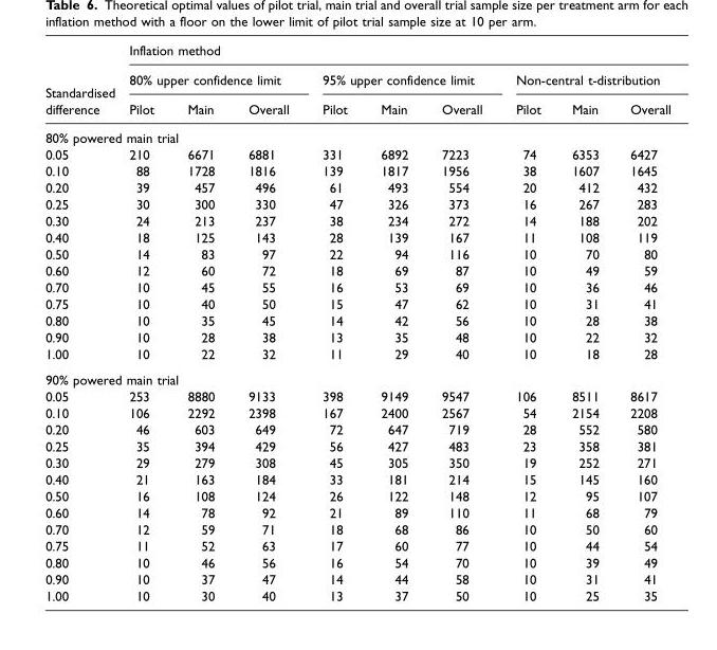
<table><thead><tr><td rowspan="3">Standardised difference</td><td colspan="9">Inflation method</td></tr><tr><td colspan="3">80% upper confidence limit</td><td colspan="3">95% upper confidence limit</td><td colspan="3">Non-central t-distribution</td></tr><tr><td>Pilot</td><td>Main</td><td>Overall</td><td>Pilot</td><td>Main</td><td>Overall</td><td>Pilot</td><td>Main</td><td>Overall</td></tr></thead><tbody><tr><td colspan="10">80% powered main trial</td></tr><tr><td>0.05</td><td>210</td><td>6671</td><td>6881</td><td>331</td><td>6892</td><td>7223</td><td>74</td><td>6353</td><td>6427</td></tr><tr><td>0.10</td><td>88</td><td>1728</td><td>1816</td><td>139</td><td>1817</td><td>1956</td><td>38</td><td>1607</td><td>1645</td></tr><tr><td>0.20</td><td>39</td><td>457</td><td>496</td><td>61</td><td>493</td><td>554</td><td>20</td><td>412</td><td>432</td></tr><tr><td>0.25</td><td>30</td><td>300</td><td>330</td><td>47</td><td>326</td><td>373</td><td>16</td><td>267</td><td>283</td></tr><tr><td>0.30</td><td>24</td><td>213</td><td>237</td><td>38</td><td>234</td><td>272</td><td>14</td><td>188</td><td>202</td></tr><tr><td>0.40</td><td>18</td><td>125</td><td>143</td><td>28</td><td>139</td><td>167</td><td>11</td><td>108</td><td>119</td></tr><tr><td>0.50</td><td>14</td><td>83</td><td>97</td><td>22</td><td>94</td><td>116</td><td>10</td><td>70</td><td>80</td></tr><tr><td>0.60</td><td>12</td><td>60</td><td>72</td><td>18</td><td>69</td><td>87</td><td>10</td><td>49</td><td>59</td></tr><tr><td>0.70</td><td>10</td><td>45</td><td>55</td><td>16</td><td>53</td><td>69</td><td>10</td><td>36</td><td>46</td></tr><tr><td>0.75</td><td>10</td><td>40</td><td>50</td><td>15</td><td>47</td><td>62</td><td>10</td><td>31</td><td>41</td></tr><tr><td>0.80</td><td>10</td><td>35</td><td>45</td><td>14</td><td>42</td><td>56</td><td>10</td><td>28</td><td>38</td></tr><tr><td>0.90</td><td>10</td><td>28</td><td>38</td><td>13</td><td>35</td><td>48</td><td>10</td><td>22</td><td>32</td></tr><tr><td>1.00</td><td>10</td><td>22</td><td>32</td><td>11</td><td>29</td><td>40</td><td>10</td><td>18</td><td>28</td></tr><tr><td colspan="10">90% powered main trial</td></tr><tr><td>0.05</td><td>253</td><td>8880</td><td>9133</td><td>398</td><td>9149</td><td>9547</td><td>106</td><td>8511</td><td>8617</td></tr><tr><td>0.10</td><td>106</td><td>2292</td><td>2398</td><td>167</td><td>2400</td><td>2567</td><td>54</td><td>2154</td><td>2208</td></tr><tr><td>0.20</td><td>46</td><td>603</td><td>649</td><td>72</td><td>647</td><td>719</td><td>28</td><td>552</td><td>580</td></tr><tr><td>0.25</td><td>35</td><td>394</td><td>429</td><td>56</td><td>427</td><td>483</td><td>23</td><td>358</td><td>381</td></tr><tr><td>0.30</td><td>29</td><td>279</td><td>308</td><td>45</td><td>305</td><td>350</td><td>19</td><td>252</td><td>271</td></tr><tr><td>0.40</td><td>21</td><td>163</td><td>184</td><td>33</td><td>181</td><td>214</td><td>15</td><td>145</td><td>160</td></tr><tr><td>0.50</td><td>16</td><td>108</td><td>124</td><td>26</td><td>122</td><td>148</td><td>12</td><td>95</td><td>107</td></tr><tr><td>0.60</td><td>14</td><td>78</td><td>92</td><td>21</td><td>89</td><td>110</td><td>11</td><td>68</td><td>79</td></tr><tr><td>0.70</td><td>12</td><td>59</td><td>71</td><td>18</td><td>68</td><td>86</td><td>10</td><td>50</td><td>60</td></tr><tr><td>0.75</td><td>11</td><td>52</td><td>63</td><td>17</td><td>60</td><td>77</td><td>10</td><td>44</td><td>54</td></tr><tr><td>0.80</td><td>10</td><td>46</td><td>56</td><td>16</td><td>54</td><td>70</td><td>10</td><td>39</td><td>49</td></tr><tr><td>0.90</td><td>10</td><td>37</td><td>47</td><td>14</td><td>44</td><td>58</td><td>10</td><td>31</td><td>41</td></tr><tr><td>1.00</td><td>10</td><td>30</td><td>40</td><td>13</td><td>37</td><td>50</td><td>10</td><td>25</td><td>35</td></tr></tbody></table>